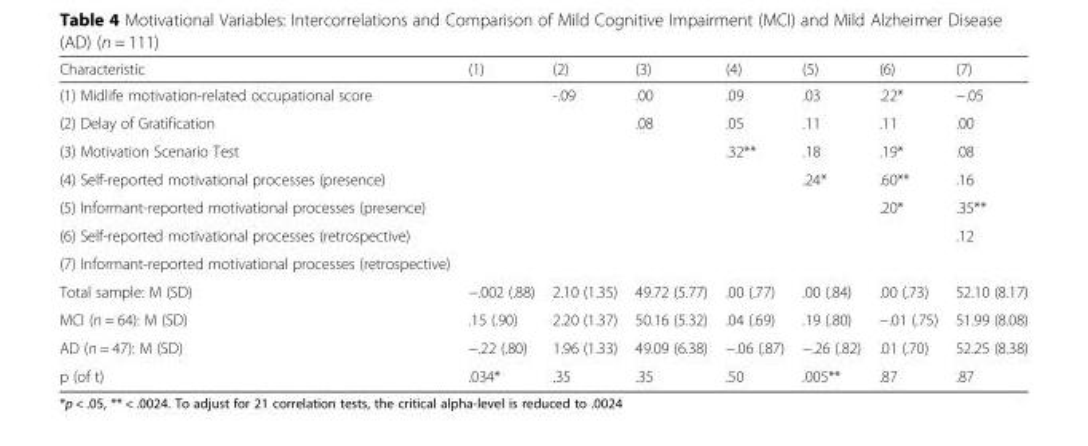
<table><thead><tr><td>Characteristic</td><td>(1)</td><td>(2)</td><td>(3)</td><td>(4)</td><td>(5)</td><td>(6)</td><td>(7)</td></tr></thead><tbody><tr><td>(1) Midlife motivation-related occupational score</td><td></td><td>-.09</td><td>.00</td><td>.09</td><td>.03</td><td>.22*</td><td>−.05</td></tr><tr><td>(2) Delay of Gratification</td><td></td><td></td><td>.08</td><td>.05</td><td>.11</td><td>.11</td><td>.00</td></tr><tr><td>(3) Motivation Scenario Test</td><td></td><td></td><td></td><td>.32**</td><td>.18</td><td>.19*</td><td>.08</td></tr><tr><td>(4) Self-reported motivational processes (presence)</td><td></td><td></td><td></td><td></td><td>.24*</td><td>.60**</td><td>.16</td></tr><tr><td>(5) Informant-reported motivational processes (presence)</td><td></td><td></td><td></td><td></td><td></td><td>.20*</td><td>.35**</td></tr><tr><td>(6) Self-reported motivational processes (retrospective)</td><td></td><td></td><td></td><td></td><td></td><td></td><td>.12</td></tr><tr><td colspan="8">(7) Informant-reported motivational processes (retrospective)</td></tr><tr><td>Total sample: M (SD)</td><td>−.002 (.88)</td><td>2.10 (1.35)</td><td>49.72 (5.77)</td><td>.00 (.77)</td><td>.00 (.84)</td><td>.00 (.73)</td><td>52.10 (8.17)</td></tr><tr><td>MCI (n = 64): M (SD)</td><td>.15 (.90)</td><td>2.20 (1.37)</td><td>50.16 (5.32)</td><td>.04 (.69)</td><td>.19 (.80)</td><td>−.01 (.75)</td><td>51.99 (8.08)</td></tr><tr><td>AD (n = 47): M (SD)</td><td>−.22 (.80)</td><td>1.96 (1.33)</td><td>49.09 (6.38)</td><td>−.06 (.87)</td><td>−.26 (.82)</td><td>.01 (.70)</td><td>52.25 (8.38)</td></tr><tr><td>p (of t)</td><td>.034*</td><td>.35</td><td>.35</td><td>.50</td><td>.005**</td><td>.87</td><td>.87</td></tr></tbody></table>